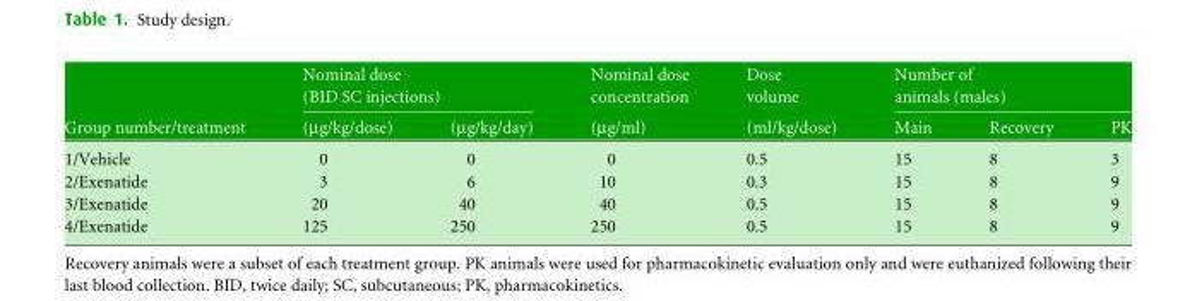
<table><thead><tr><td rowspan="2">Group number/treatment</td><td colspan="2">Nominal dose (BID SC injections)</td><td rowspan="2">Nominal dose concentration (μg/ml)</td><td rowspan="2">Dose volume (ml/kg/dose)</td><td colspan="3">Number of animals (males)</td></tr><tr><td>(μg/kg/dose)</td><td>(μg/kg/day)</td><td>Main</td><td>Recovery</td><td>PK</td></tr></thead><tbody><tr><td>1/Vehicle</td><td>0</td><td>0</td><td>0</td><td>0.5</td><td>15</td><td>8</td><td>3</td></tr><tr><td>2/Exenatide</td><td>3</td><td>6</td><td>10</td><td>0.3</td><td>15</td><td>8</td><td>9</td></tr><tr><td>3/Exenatide</td><td>20</td><td>40</td><td>40</td><td>0.5</td><td>15</td><td>8</td><td>9</td></tr><tr><td>4/Exenatide</td><td>125</td><td>250</td><td>250</td><td>0.5</td><td>15</td><td>8</td><td>9</td></tr></tbody></table>